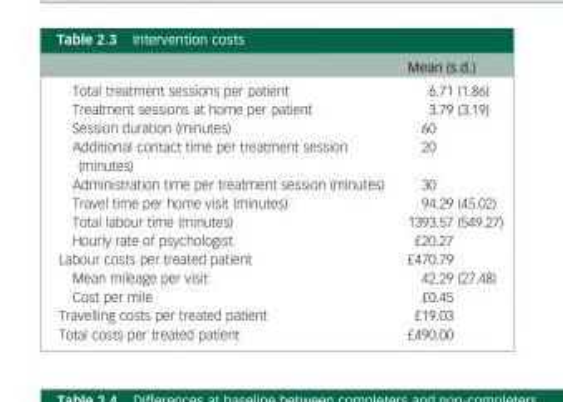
<table><thead><tr><td></td><td>Mean (s.d.)</td></tr></thead><tbody><tr><td>Total treatment sessions per patient</td><td>6.71 (1.86)</td></tr><tr><td>Treatment sessions at home per patient</td><td>3.79 (3.19)</td></tr><tr><td>Session duration (minutes)</td><td>60</td></tr><tr><td>Additional contact time per treatment session (minutes)</td><td>20</td></tr><tr><td>Administration time per treatment session (minutes)</td><td>30</td></tr><tr><td>Travel time per home visit (minutes)</td><td>94.29 (45.02)</td></tr><tr><td>Total labour time (minutes)</td><td>1393.57 (549.27)</td></tr><tr><td>Hourly rate of psychologist</td><td>£20.27</td></tr><tr><td>Labour costs per treated patient</td><td>£470.79</td></tr><tr><td>Mean mileage per visit</td><td>42.29 (27.48)</td></tr><tr><td>Cost per mile</td><td>£0.45</td></tr><tr><td>Travelling costs per treated patient</td><td>£19.03</td></tr><tr><td>Total costs per treated patient</td><td>£490.00</td></tr></tbody></table>